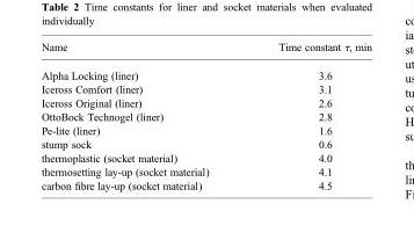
<table><thead><tr><td>Name</td><td>Time constant τ, min</td></tr></thead><tbody><tr><td>Alpha Locking (liner)</td><td>3.6</td></tr><tr><td>Iceross Comfort (liner)</td><td>3.1</td></tr><tr><td>Iceross Original (liner)</td><td>2.6</td></tr><tr><td>OttoBock Technogel (liner)</td><td>2.8</td></tr><tr><td>Pe-lite (liner)</td><td>1.6</td></tr><tr><td>stump sock</td><td>0.6</td></tr><tr><td>thermoplastic (socket material)</td><td>4.0</td></tr><tr><td>thermosetting lay-up (socket material)</td><td>4.1</td></tr><tr><td>carbon fibre lay-up (socket material)</td><td>4.5</td></tr></tbody></table>